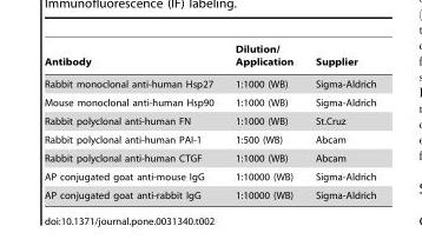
<table><thead><tr><td>Antibody</td><td>Dilution/ Application</td><td>Supplier</td></tr></thead><tbody><tr><td>Rabbit monoclonal anti-human Hsp27</td><td>1:1000 (WB)</td><td>Sigma-Aldrich</td></tr><tr><td>Mouse monoclonal anti-human Hsp90</td><td>1:1000 (WB)</td><td>Sigma-Aldrich</td></tr><tr><td>Rabbit polyclonal anti-human FN</td><td>1:1000 (WB)</td><td>St.Cruz</td></tr><tr><td>Rabbit polyclonal anti-human PAI-1</td><td>1:500 (WB)</td><td>Abcam</td></tr><tr><td>Rabbit polyclonal anti-human CTGF</td><td>1:1000 (WB)</td><td>Abcam</td></tr><tr><td>AP conjugated goat anti-mouse IgG</td><td>1:10000 (WB)</td><td>Sigma-Aldrich</td></tr><tr><td>AP conjugated goat anti-rabbit IgG</td><td>1:10000 (WB)</td><td>Sigma-Aldrich</td></tr></tbody></table>